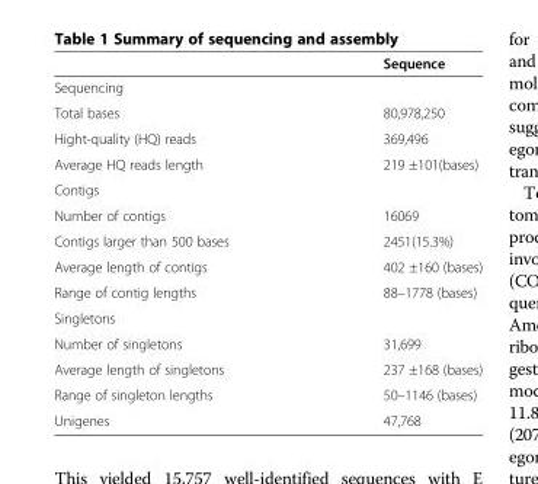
<table><thead><tr><td></td><td>Sequence</td></tr></thead><tbody><tr><td colspan="2">Sequencing</td></tr><tr><td>Total bases</td><td>80,978,250</td></tr><tr><td>Hight-quality (HQ) reads</td><td>369,496</td></tr><tr><td>Average HQ reads length</td><td>219 ±101(bases)</td></tr><tr><td colspan="2">Contigs</td></tr><tr><td>Number of contigs</td><td>16069</td></tr><tr><td>Contigs larger than 500 bases</td><td>2451(15.3%)</td></tr><tr><td>Average length of contigs</td><td>402 ±160 (bases)</td></tr><tr><td>Range of contig lengths</td><td>88–1778 (bases)</td></tr><tr><td colspan="2">Singletons</td></tr><tr><td>Number of singletons</td><td>31,699</td></tr><tr><td>Average length of singletons</td><td>237 ±168 (bases)</td></tr><tr><td>Range of singleton lengths</td><td>50–1146 (bases)</td></tr><tr><td>Unigenes</td><td>47,768</td></tr></tbody></table>